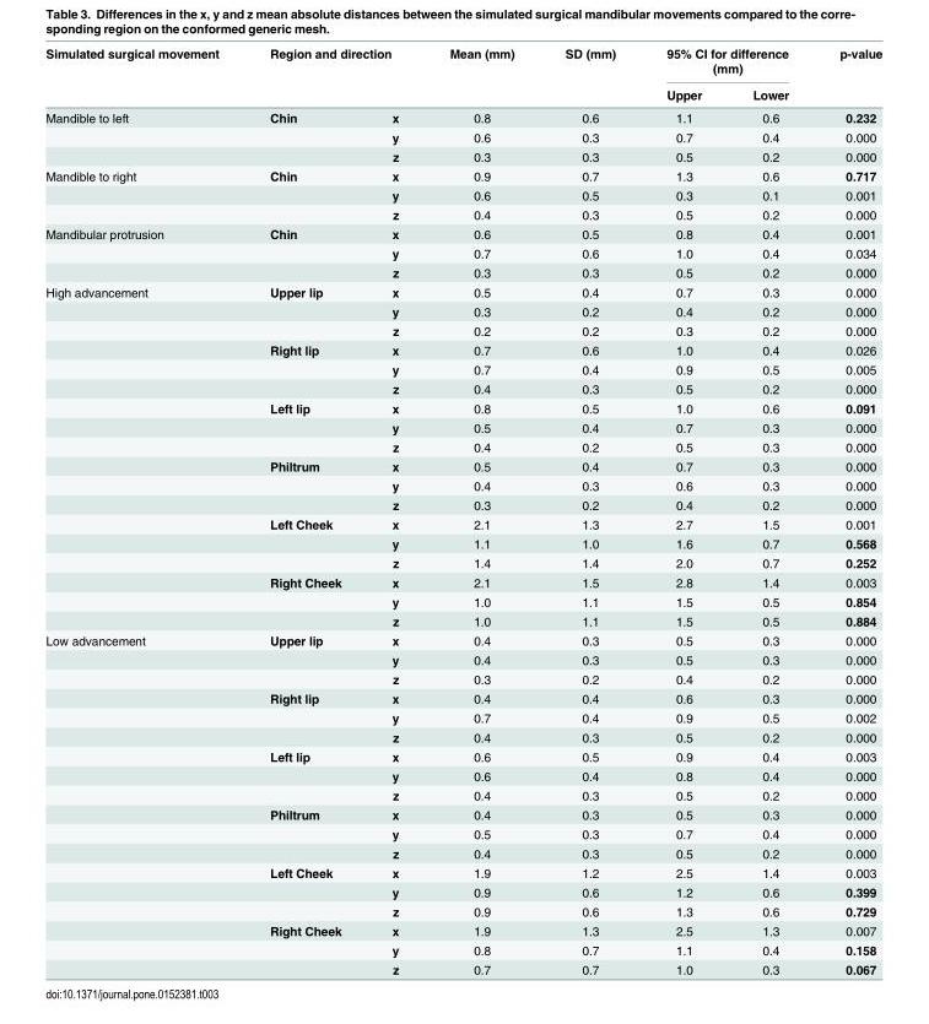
<table><thead><tr><td rowspan="2">Simulated surgical movement</td><td colspan="2">Region and direction</td><td rowspan="2">Mean (mm)</td><td rowspan="2">SD (mm)</td><td colspan="2">95% CI for difference (mm)</td><td rowspan="2">p-value</td></tr><tr><td></td><td></td><td>Upper</td><td>Lower</td></tr></thead><tbody><tr><td rowspan="3">Mandible to left</td><td>Chin</td><td>x</td><td>0.8</td><td>0.6</td><td>1.1</td><td>0.6</td><td>0.232</td></tr><tr><td></td><td>y</td><td>0.6</td><td>0.3</td><td>0.7</td><td>0.4</td><td>0.000</td></tr><tr><td></td><td>z</td><td>0.3</td><td>0.3</td><td>0.5</td><td>0.2</td><td>0.000</td></tr><tr><td rowspan="3">Mandible to right</td><td>Chin</td><td>x</td><td>0.9</td><td>0.7</td><td>1.3</td><td>0.6</td><td>0.717</td></tr><tr><td></td><td>y</td><td>0.6</td><td>0.5</td><td>0.3</td><td>0.1</td><td>0.001</td></tr><tr><td></td><td>z</td><td>0.4</td><td>0.3</td><td>0.5</td><td>0.2</td><td>0.000</td></tr><tr><td rowspan="3">Mandibular protrusion</td><td>Chin</td><td>x</td><td>0.6</td><td>0.5</td><td>0.8</td><td>0.4</td><td>0.001</td></tr><tr><td></td><td>y</td><td>0.7</td><td>0.6</td><td>1.0</td><td>0.4</td><td>0.034</td></tr><tr><td></td><td>z</td><td>0.3</td><td>0.3</td><td>0.5</td><td>0.2</td><td>0.000</td></tr><tr><td rowspan="18">High advancement</td><td>Upper lip</td><td>x</td><td>0.5</td><td>0.4</td><td>0.7</td><td>0.3</td><td>0.000</td></tr><tr><td></td><td>y</td><td>0.3</td><td>0.2</td><td>0.4</td><td>0.2</td><td>0.000</td></tr><tr><td></td><td>z</td><td>0.2</td><td>0.2</td><td>0.3</td><td>0.2</td><td>0.000</td></tr><tr><td>Right lip</td><td>x</td><td>0.7</td><td>0.6</td><td>1.0</td><td>0.4</td><td>0.026</td></tr><tr><td></td><td>y</td><td>0.7</td><td>0.4</td><td>0.9</td><td>0.5</td><td>0.005</td></tr><tr><td></td><td>z</td><td>0.4</td><td>0.3</td><td>0.5</td><td>0.2</td><td>0.000</td></tr><tr><td>Left lip</td><td>x</td><td>0.8</td><td>0.5</td><td>1.0</td><td>0.6</td><td>0.091</td></tr><tr><td></td><td>y</td><td>0.5</td><td>0.4</td><td>0.7</td><td>0.3</td><td>0.000</td></tr><tr><td></td><td>z</td><td>0.4</td><td>0.2</td><td>0.5</td><td>0.3</td><td>0.000</td></tr><tr><td>Philtrum</td><td>x</td><td>0.5</td><td>0.4</td><td>0.7</td><td>0.3</td><td>0.000</td></tr><tr><td></td><td>y</td><td>0.4</td><td>0.3</td><td>0.6</td><td>0.3</td><td>0.000</td></tr><tr><td></td><td>z</td><td>0.3</td><td>0.2</td><td>0.4</td><td>0.2</td><td>0.000</td></tr><tr><td>Left Cheek</td><td>x</td><td>2.1</td><td>1.3</td><td>2.7</td><td>1.5</td><td>0.001</td></tr><tr><td></td><td>y</td><td>1.1</td><td>1.0</td><td>1.6</td><td>0.7</td><td>0.568</td></tr><tr><td></td><td>z</td><td>1.4</td><td>1.4</td><td>2.0</td><td>0.7</td><td>0.252</td></tr><tr><td>Right Cheek</td><td>x</td><td>2.1</td><td>1.5</td><td>2.8</td><td>1.4</td><td>0.003</td></tr><tr><td></td><td>y</td><td>1.0</td><td>1.1</td><td>1.5</td><td>0.5</td><td>0.854</td></tr><tr><td></td><td>z</td><td>1.0</td><td>1.1</td><td>1.5</td><td>0.5</td><td>0.884</td></tr><tr><td rowspan="18">Low advancement</td><td>Upper lip</td><td>x</td><td>0.4</td><td>0.3</td><td>0.5</td><td>0.3</td><td>0.000</td></tr><tr><td></td><td>y</td><td>0.4</td><td>0.3</td><td>0.5</td><td>0.3</td><td>0.000</td></tr><tr><td></td><td>z</td><td>0.3</td><td>0.2</td><td>0.4</td><td>0.2</td><td>0.000</td></tr><tr><td>Right lip</td><td>x</td><td>0.4</td><td>0.4</td><td>0.6</td><td>0.3</td><td>0.000</td></tr><tr><td></td><td>y</td><td>0.7</td><td>0.4</td><td>0.9</td><td>0.5</td><td>0.002</td></tr><tr><td></td><td>z</td><td>0.4</td><td>0.3</td><td>0.5</td><td>0.2</td><td>0.000</td></tr><tr><td>Left lip</td><td>x</td><td>0.6</td><td>0.5</td><td>0.9</td><td>0.4</td><td>0.003</td></tr><tr><td></td><td>y</td><td>0.6</td><td>0.4</td><td>0.8</td><td>0.4</td><td>0.000</td></tr><tr><td></td><td>z</td><td>0.4</td><td>0.3</td><td>0.5</td><td>0.2</td><td>0.000</td></tr><tr><td>Philtrum</td><td>x</td><td>0.4</td><td>0.3</td><td>0.5</td><td>0.3</td><td>0.000</td></tr><tr><td></td><td>y</td><td>0.5</td><td>0.3</td><td>0.7</td><td>0.4</td><td>0.000</td></tr><tr><td></td><td>z</td><td>0.4</td><td>0.3</td><td>0.5</td><td>0.2</td><td>0.000</td></tr><tr><td>Left Cheek</td><td>x</td><td>1.9</td><td>1.2</td><td>2.5</td><td>1.4</td><td>0.003</td></tr><tr><td></td><td>y</td><td>0.9</td><td>0.6</td><td>1.2</td><td>0.6</td><td>0.399</td></tr><tr><td></td><td>z</td><td>0.9</td><td>0.6</td><td>1.3</td><td>0.6</td><td>0.729</td></tr><tr><td>Right Cheek</td><td>x</td><td>1.9</td><td>1.3</td><td>2.5</td><td>1.3</td><td>0.007</td></tr><tr><td></td><td>y</td><td>0.8</td><td>0.7</td><td>1.1</td><td>0.4</td><td>0.158</td></tr><tr><td></td><td>z</td><td>0.7</td><td>0.7</td><td>1.0</td><td>0.3</td><td>0.067</td></tr></tbody></table>